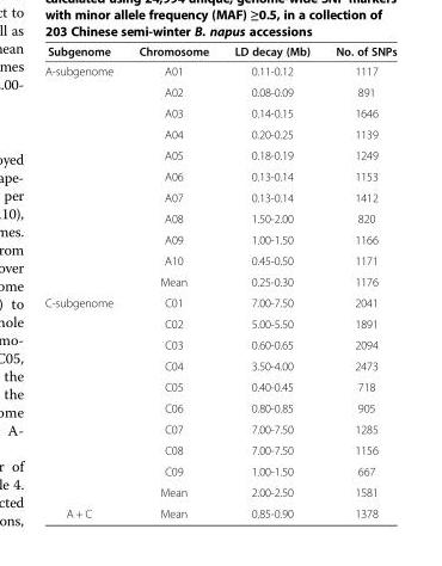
<table><thead><tr><td>Subgenome</td><td>Chromosome</td><td>LD decay (Mb)</td><td>No. of SNPs</td></tr></thead><tbody><tr><td rowspan="11">A-subgenome</td><td>A01</td><td>0.11-0.12</td><td>1117</td></tr><tr><td>A02</td><td>0.08-0.09</td><td>891</td></tr><tr><td>A03</td><td>0.14-0.15</td><td>1646</td></tr><tr><td>A04</td><td>0.20-0.25</td><td>1139</td></tr><tr><td>A05</td><td>0.18-0.19</td><td>1249</td></tr><tr><td>A06</td><td>0.13-0.14</td><td>1153</td></tr><tr><td>A07</td><td>0.13-0.14</td><td>1412</td></tr><tr><td>A08</td><td>1.50-2.00</td><td>820</td></tr><tr><td>A09</td><td>1.00-1.50</td><td>1166</td></tr><tr><td>A10</td><td>0.45-0.50</td><td>1171</td></tr><tr><td>Mean</td><td>0.25-0.30</td><td>1176</td></tr><tr><td rowspan="10">C-subgenome</td><td>C01</td><td>7.00-7.50</td><td>2041</td></tr><tr><td>C02</td><td>5.00-5.50</td><td>1891</td></tr><tr><td>C03</td><td>0.60-0.65</td><td>2094</td></tr><tr><td>C04</td><td>3.50-4.00</td><td>2473</td></tr><tr><td>C05</td><td>0.40-0.45</td><td>718</td></tr><tr><td>C06</td><td>0.80-0.85</td><td>905</td></tr><tr><td>C07</td><td>7.00-7.50</td><td>1285</td></tr><tr><td>C08</td><td>7.00-7.50</td><td>1156</td></tr><tr><td>C09</td><td>1.00-1.50</td><td>667</td></tr><tr><td>Mean</td><td>2.00-2.50</td><td>1581</td></tr><tr><td>A + C</td><td>Mean</td><td>0.85-0.90</td><td>1378</td></tr></tbody></table>